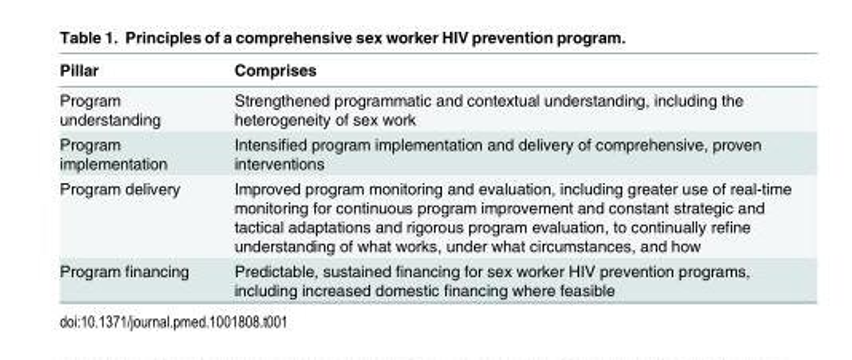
<table><thead><tr><td>Pillar</td><td>Comprises</td></tr></thead><tbody><tr><td>Program understanding</td><td>Strengthened programmatic and contextual understanding, including the heterogeneity of sex work</td></tr><tr><td>Program implementation</td><td>Intensified program implementation and delivery of comprehensive, proven interventions</td></tr><tr><td>Program delivery</td><td>Improved program monitoring and evaluation, including greater use of real-time monitoring for continuous program improvement and constant strategic and tactical adaptations and rigorous program evaluation, to continually refine understanding of what works, under what circumstances, and how</td></tr><tr><td>Program financing</td><td>Predictable, sustained financing for sex worker HIV prevention programs, including increased domestic financing where feasible</td></tr></tbody></table>